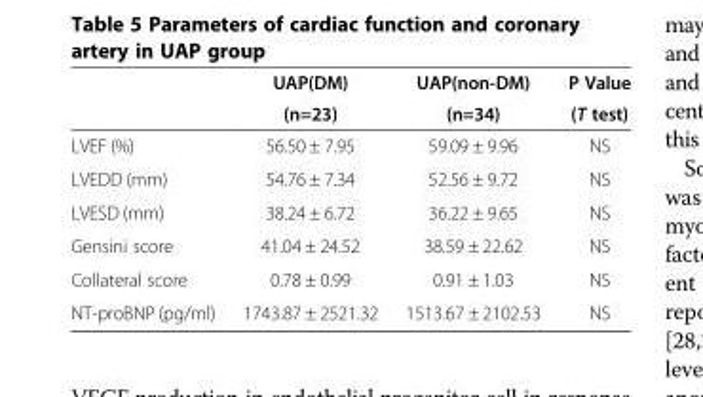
<table><thead><tr><td rowspan="2"></td><td rowspan="2">UAP(DM) (n=23)</td><td rowspan="2">UAP(non-DM) (n=34)</td><td rowspan="2">P Value (T test)</td></tr><tr></tr></thead><tbody><tr><td>LVEF (%)</td><td>56.50 ± 7.95</td><td>59.09 ± 9.96</td><td>NS</td></tr><tr><td>LVEDD (mm)</td><td>54.76 ± 7.34</td><td>52.56 ± 9.72</td><td>NS</td></tr><tr><td>LVESD (mm)</td><td>38.24 ± 6.72</td><td>36.22 ± 9.65</td><td>NS</td></tr><tr><td>Gensini score</td><td>41.04 ± 24.52</td><td>38.59 ± 22.62</td><td>NS</td></tr><tr><td>Collateral score</td><td>0.78 ± 0.99</td><td>0.91 ± 1.03</td><td>NS</td></tr><tr><td>NT-proBNP (pg/ml)</td><td>1743.87 ± 2521.32</td><td>1513.67 ± 2102.53</td><td>NS</td></tr></tbody></table>